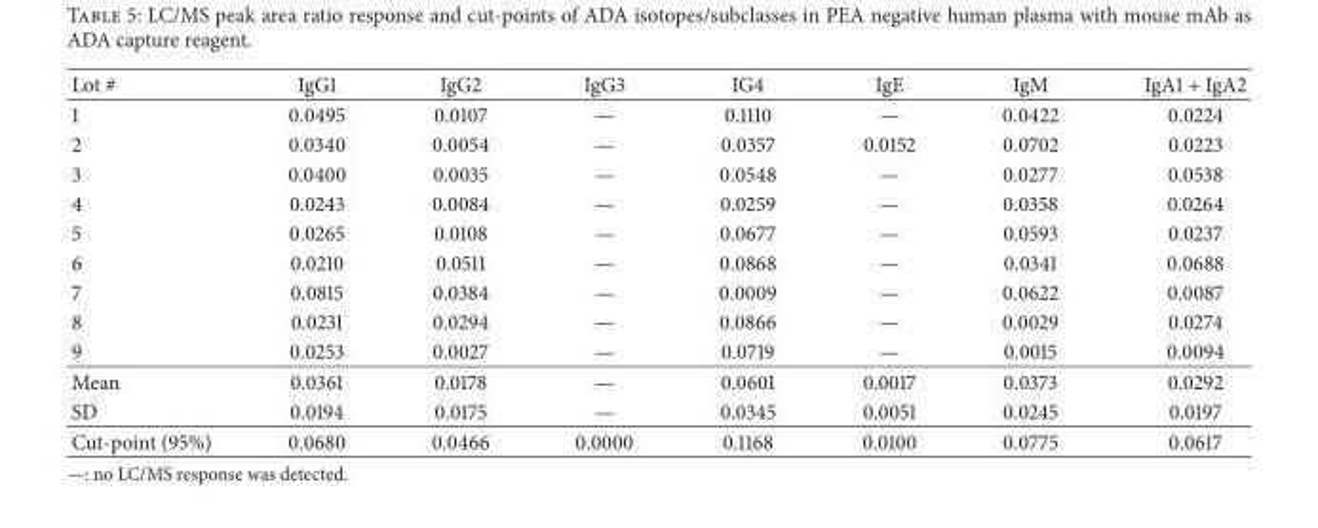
<table><thead><tr><td>Lot #</td><td>IgG1</td><td>IgG2</td><td>IgG3</td><td>IG4</td><td>IgE</td><td>IgM</td><td>IgA1 + IgA2</td></tr></thead><tbody><tr><td>1</td><td>0.0495</td><td>0.0107</td><td>—</td><td>0.1110</td><td>—</td><td>0.0422</td><td>0.0224</td></tr><tr><td>2</td><td>0.0340</td><td>0.0054</td><td>—</td><td>0.0357</td><td>0.0152</td><td>0.0702</td><td>0.0223</td></tr><tr><td>3</td><td>0.0400</td><td>0.0035</td><td>—</td><td>0.0548</td><td>—</td><td>0.0277</td><td>0.0538</td></tr><tr><td>4</td><td>0.0243</td><td>0.0084</td><td>—</td><td>0.0259</td><td>—</td><td>0.0358</td><td>0.0264</td></tr><tr><td>5</td><td>0.0265</td><td>0.0108</td><td>—</td><td>0.0677</td><td>—</td><td>0.0593</td><td>0.0237</td></tr><tr><td>6</td><td>0.0210</td><td>0.0511</td><td>—</td><td>0.0868</td><td>—</td><td>0.0341</td><td>0.0688</td></tr><tr><td>7</td><td>0.0815</td><td>0.0384</td><td>—</td><td>0.0009</td><td>—</td><td>0.0622</td><td>0.0087</td></tr><tr><td>8</td><td>0.0231</td><td>0.0294</td><td>—</td><td>0.0866</td><td>—</td><td>0.0029</td><td>0.0274</td></tr><tr><td>9</td><td>0.0253</td><td>0.0027</td><td>—</td><td>0.0719</td><td>—</td><td>0.0015</td><td>0.0094</td></tr><tr><td>Mean</td><td>0.0361</td><td>0.0178</td><td>—</td><td>0.0601</td><td>0.0017</td><td>0.0373</td><td>0.0292</td></tr><tr><td>SD</td><td>0.0194</td><td>0.0175</td><td>—</td><td>0.0345</td><td>0.0051</td><td>0.0245</td><td>0.0197</td></tr><tr><td>Cut-point (95%)</td><td>0.0680</td><td>0.0466</td><td>0.0000</td><td>0.1168</td><td>0.0100</td><td>0.0775</td><td>0.0617</td></tr></tbody></table>